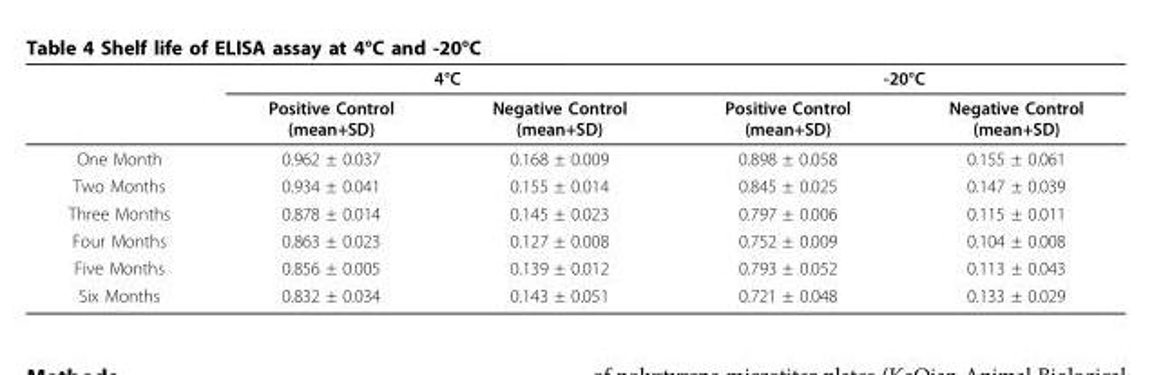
<table><thead><tr><td rowspan="2"></td><td colspan="2">4°C</td><td colspan="2">-20°C</td></tr><tr><td>Positive Control (mean+SD)</td><td>Negative Control (mean+SD)</td><td>Positive Control (mean+SD)</td><td>Negative Control (mean+SD)</td></tr></thead><tbody><tr><td>One Month</td><td>0.962 ± 0.037</td><td>0.168 ± 0.009</td><td>0.898 ± 0.058</td><td>0.155 ± 0.061</td></tr><tr><td>Two Months</td><td>0.934 ± 0.041</td><td>0.155 ± 0.014</td><td>0.845 ± 0.025</td><td>0.147 ± 0.039</td></tr><tr><td>Three Months</td><td>0.878 ± 0.014</td><td>0.145 ± 0.023</td><td>0.797 ± 0.006</td><td>0.115 ± 0.011</td></tr><tr><td>Four Months</td><td>0.863 ± 0.023</td><td>0.127 ± 0.008</td><td>0.752 ± 0.009</td><td>0.104 ± 0.008</td></tr><tr><td>Five Months</td><td>0.856 ± 0.005</td><td>0.139 ± 0.012</td><td>0.793 ± 0.052</td><td>0.113 ± 0.043</td></tr><tr><td>Six Months</td><td>0.832 ± 0.034</td><td>0.143 ± 0.051</td><td>0.721 ± 0.048</td><td>0.133 ± 0.029</td></tr></tbody></table>